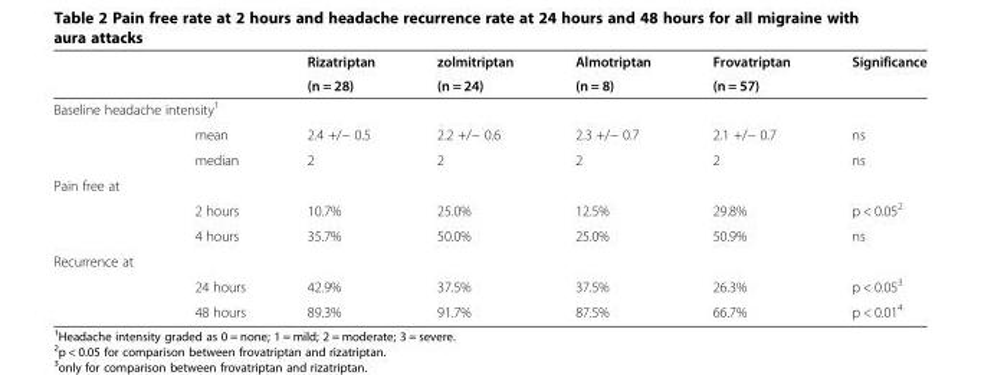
<table><thead><tr><td rowspan="2"></td><td rowspan="2"></td><td rowspan="2">Rizatriptan (n = 28)</td><td rowspan="2">zolmitriptan (n = 24)</td><td rowspan="2">Almotriptan (n = 8)</td><td rowspan="2">Frovatriptan (n = 57)</td><td rowspan="2">Significance</td></tr><tr></tr></thead><tbody><tr><td colspan="7">Baseline headache intensity<sup>1</sup></td></tr><tr><td></td><td>mean</td><td>2.4 +/− 0.5</td><td>2.2 +/− 0.6</td><td>2.3 +/− 0.7</td><td>2.1 +/− 0.7</td><td>ns</td></tr><tr><td></td><td>median</td><td>2</td><td>2</td><td>2</td><td>2</td><td>ns</td></tr><tr><td colspan="7">Pain free at</td></tr><tr><td></td><td>2 hours</td><td>10.7%</td><td>25.0%</td><td>12.5%</td><td>29.8%</td><td>p &lt; 0.05<sup>2</sup></td></tr><tr><td></td><td>4 hours</td><td>35.7%</td><td>50.0%</td><td>25.0%</td><td>50.9%</td><td>ns</td></tr><tr><td colspan="7">Recurrence at</td></tr><tr><td></td><td>24 hours</td><td>42.9%</td><td>37.5%</td><td>37.5%</td><td>26.3%</td><td>p &lt; 0.05<sup>3</sup></td></tr><tr><td></td><td>48 hours</td><td>89.3%</td><td>91.7%</td><td>87.5%</td><td>66.7%</td><td>p &lt; 0.01<sup>4</sup></td></tr></tbody></table>